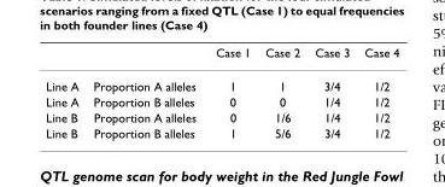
<table><thead><tr><td></td><td></td><td>Case 1</td><td>Case 2</td><td>Case 3</td><td>Case 4</td></tr></thead><tbody><tr><td>Line A</td><td>Proportion A alleles</td><td>1</td><td>1</td><td>3/4</td><td>1/2</td></tr><tr><td>Line A</td><td>Proportion B alleles</td><td>0</td><td>0</td><td>1/4</td><td>1/2</td></tr><tr><td>Line B</td><td>Proportion A alleles</td><td>0</td><td>1/6</td><td>1/4</td><td>1/2</td></tr><tr><td>Line B</td><td>Proportion B alleles</td><td>1</td><td>5/6</td><td>3/4</td><td>1/2</td></tr></tbody></table>